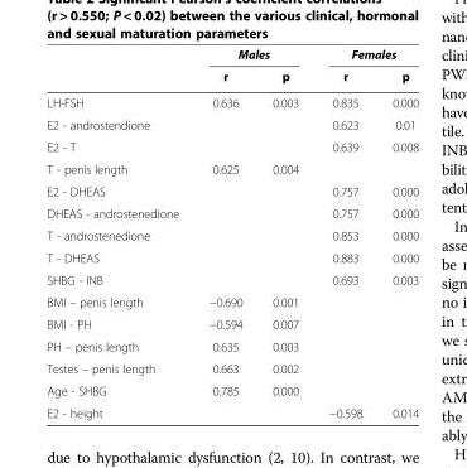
<table><thead><tr><td rowspan="2"></td><td colspan="2">Males</td><td colspan="2">Females</td></tr><tr><td>r</td><td>p</td><td>r</td><td>p</td></tr></thead><tbody><tr><td>LH-FSH</td><td>0.636</td><td>0.003</td><td>0.835</td><td>0.000</td></tr><tr><td>E2 - androstendione</td><td></td><td></td><td>0.623</td><td>0.01</td></tr><tr><td>E2 - T</td><td></td><td></td><td>0.639</td><td>0.008</td></tr><tr><td>T - penis length</td><td>0.625</td><td>0.004</td><td></td><td></td></tr><tr><td>E2 - DHEAS</td><td></td><td></td><td>0.757</td><td>0.000</td></tr><tr><td>DHEAS - androstenedione</td><td></td><td></td><td>0.757</td><td>0.000</td></tr><tr><td>T - androstenedione</td><td></td><td></td><td>0.853</td><td>0.000</td></tr><tr><td>T - DHEAS</td><td></td><td></td><td>0.883</td><td>0.000</td></tr><tr><td>SHBG - INB</td><td></td><td></td><td>0.693</td><td>0.003</td></tr><tr><td>BMI – penis length</td><td>−0.690</td><td>0.001</td><td></td><td></td></tr><tr><td>BMI - PH</td><td>−0.594</td><td>0.007</td><td></td><td></td></tr><tr><td>PH – penis length</td><td>0.635</td><td>0.003</td><td></td><td></td></tr><tr><td>Testes – penis length</td><td>0.663</td><td>0.002</td><td></td><td></td></tr><tr><td>Age - SHBG</td><td>0.785</td><td>0.000</td><td></td><td></td></tr><tr><td>E2 - height</td><td></td><td></td><td>−0.598</td><td>0.014</td></tr></tbody></table>